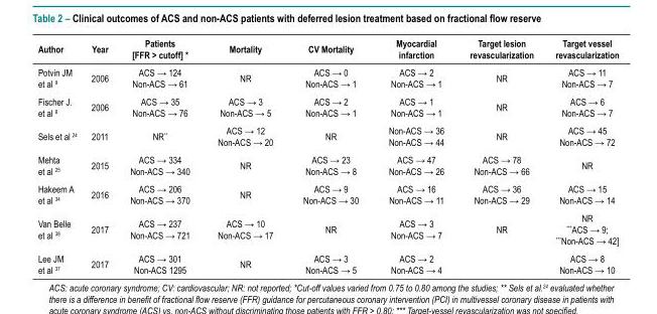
<table><thead><tr><td>Author</td><td>Year</td><td>Patients [FFR &gt; cutoff] *</td><td>Mortality</td><td>CV Mortality</td><td>Myocardial infarction</td><td>Target lesion revascularization</td><td>Target vessel revascularization</td></tr></thead><tbody><tr><td>Potvin JM et al <sup>9</sup></td><td>2006</td><td>ACS → 124 Non-ACS → 61</td><td>NR</td><td>ACS → 0 Non-ACS → 1</td><td>ACS → 2 Non-ACS → 1</td><td>NR</td><td>ACS → 11 Non-ACS → 7</td></tr><tr><td>Fischer J. et al <sup>8</sup></td><td>2006</td><td>ACS → 35 Non-ACS → 76</td><td>ACS → 3 Non-ACS → 5</td><td>ACS → 2 Non-ACS → 1</td><td>ACS → 1 Non-ACS → 1</td><td>NR</td><td>ACS → 6 Non-ACS → 7</td></tr><tr><td>Sels et al <sup>24</sup></td><td>2011</td><td>NR**</td><td>ACS → 12 Non-ACS → 20</td><td>NR</td><td>Non-ACS → 36 Non-ACS → 44</td><td>NR</td><td>ACS → 45 Non-ACS → 72</td></tr><tr><td>Mehta et al <sup>25</sup></td><td>2015</td><td>ACS → 334 Non-ACS → 340</td><td>NR</td><td>ACS → 23 Non-ACS → 8</td><td>ACS → 47 Non-ACS → 26</td><td>ACS → 78 Non-ACS → 66</td><td>NR</td></tr><tr><td>Hakeem A et al <sup>34</sup></td><td>2016</td><td>ACS → 206 Non-ACS → 370</td><td>NR</td><td>ACS → 9 Non-ACS → 30</td><td>ACS → 16 Non-ACS → 11</td><td>ACS → 36 Non-ACS → 29</td><td>ACS → 15 Non-ACS → 14</td></tr><tr><td>Van Belle et al <sup>38</sup></td><td>2017</td><td>ACS → 237 Non-ACS → 721</td><td>ACS → 10 Non-ACS → 17</td><td>NR</td><td>ACS → 3 Non-ACS → 7</td><td>NR</td><td>NR ***ACS → 9; ***Non-ACS → 42]</td></tr><tr><td>Lee JM et al <sup>37</sup></td><td>2017</td><td>ACS → 301 Non-ACS 1295</td><td>NR</td><td>ACS → 3 Non-ACS → 5</td><td>ACS → 2 Non-ACS → 4</td><td></td><td>ACS → 8 Non-ACS → 10</td></tr></tbody></table>